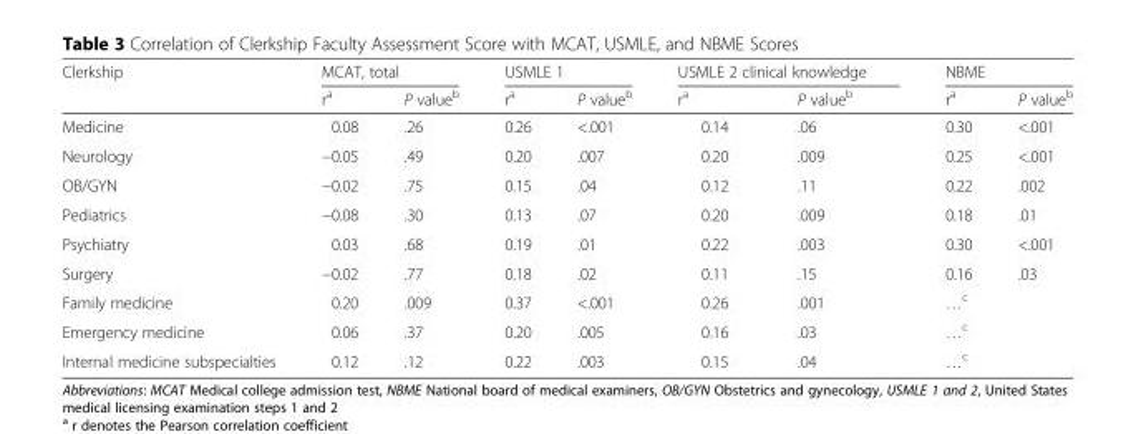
<table><thead><tr><td rowspan="2">Clerkship</td><td colspan="2">MCAT, total</td><td colspan="2">USMLE 1</td><td colspan="2">USMLE 2 clinical knowledge</td><td colspan="2">NBME</td></tr><tr><td>r<sup>a</sup></td><td>P value<sup>b</sup></td><td>r<sup>a</sup></td><td>P value<sup>b</sup></td><td>r<sup>a</sup></td><td>P value<sup>b</sup></td><td>r<sup>a</sup></td><td>P value<sup>b</sup></td></tr></thead><tbody><tr><td>Medicine</td><td>0.08</td><td>.26</td><td>0.26</td><td>&lt;.001</td><td>0.14</td><td>.06</td><td>0.30</td><td>&lt;.001</td></tr><tr><td>Neurology</td><td>−0.05</td><td>.49</td><td>0.20</td><td>.007</td><td>0.20</td><td>.009</td><td>0.25</td><td>&lt;.001</td></tr><tr><td>OB/GYN</td><td>−0.02</td><td>.75</td><td>0.15</td><td>.04</td><td>0.12</td><td>.11</td><td>0.22</td><td>.002</td></tr><tr><td>Pediatrics</td><td>−0.08</td><td>.30</td><td>0.13</td><td>.07</td><td>0.20</td><td>.009</td><td>0.18</td><td>.01</td></tr><tr><td>Psychiatry</td><td>0.03</td><td>.68</td><td>0.19</td><td>.01</td><td>0.22</td><td>.003</td><td>0.30</td><td>&lt;.001</td></tr><tr><td>Surgery</td><td>−0.02</td><td>.77</td><td>0.18</td><td>.02</td><td>0.11</td><td>.15</td><td>0.16</td><td>.03</td></tr><tr><td>Family medicine</td><td>0.20</td><td>.009</td><td>0.37</td><td>&lt;.001</td><td>0.26</td><td>.001</td><td>…<sup>c</sup></td><td></td></tr><tr><td>Emergency medicine</td><td>0.06</td><td>.37</td><td>0.20</td><td>.005</td><td>0.16</td><td>.03</td><td>…<sup>c</sup></td><td></td></tr><tr><td>Internal medicine subspecialties</td><td>0.12</td><td>.12</td><td>0.22</td><td>.003</td><td>0.15</td><td>.04</td><td>…<sup>c</sup></td><td></td></tr></tbody></table>